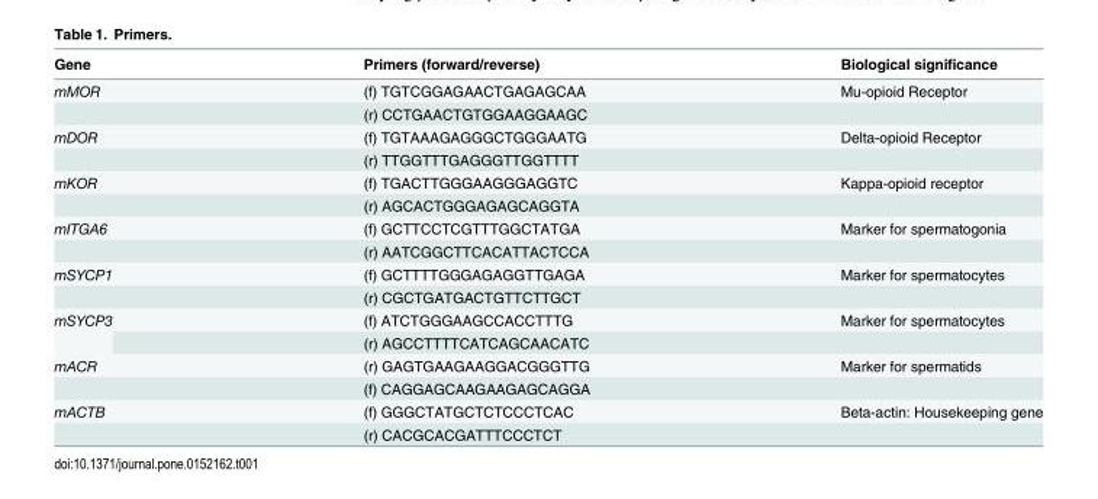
<table><thead><tr><td>Gene</td><td>Primers (forward/reverse)</td><td>Biological significance</td></tr></thead><tbody><tr><td rowspan="2">mMOR</td><td>(f) TGTCGGAGAACTGAGAGCAA</td><td>Mu-opioid Receptor</td></tr><tr><td>(r) CCTGAACTGTGGAAGGAAGC</td><td></td></tr><tr><td rowspan="2">mDOR</td><td>(f) TGTAAAGAGGGCTGGGAATG</td><td>Delta-opioid Receptor</td></tr><tr><td>(r) TTGGTTTGAGGGTTGGTTTT</td><td></td></tr><tr><td rowspan="2">mKOR</td><td>(f) TGACTTGGGAAGGGAGGTC</td><td>Kappa-opioid receptor</td></tr><tr><td>(r) AGCACTGGGAGAGCAGGTA</td><td></td></tr><tr><td rowspan="2">mITGA6</td><td>(f) GCTTCCTCGTTTGGCTATGA</td><td>Marker for spermatogonia</td></tr><tr><td>(r) AATCGGCTTCACATTACTCCA</td><td></td></tr><tr><td rowspan="2">mSYCP1</td><td>(f) GCTTTTGGGAGAGGTTGAGA</td><td>Marker for spermatocytes</td></tr><tr><td>(r) CGCTGATGACTGTTCTTGCT</td><td></td></tr><tr><td rowspan="2">mSYCP3</td><td>(f) ATCTGGGAAGCCACCTTTG</td><td>Marker for spermatocytes</td></tr><tr><td>(r) AGCCTTTTCATCAGCAACATC</td><td></td></tr><tr><td rowspan="2">mACR</td><td>(r) GAGTGAAGAAGGACGGGTTG</td><td>Marker for spermatids</td></tr><tr><td>(f) CAGGAGCAAGAAGAGCAGGA</td><td></td></tr><tr><td rowspan="2">mACTB</td><td>(f) GGGCTATGCTCTCCCTCAC</td><td>Beta-actin: Housekeeping gene</td></tr><tr><td>(r) CACGCACGATTTCCCTCT</td><td></td></tr></tbody></table>